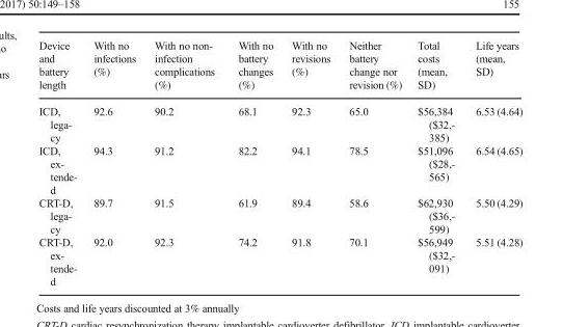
<table><thead><tr><td>Device and battery length</td><td>With no infections (%)</td><td>With no non- infection complications (%)</td><td>With no battery changes (%)</td><td>With no revisions (%)</td><td>Neither battery change nor revision (%)</td><td>Total costs (mean, SD)</td><td>Life years (mean, SD)</td></tr></thead><tbody><tr><td>ICD, lega- cy</td><td>92.6</td><td>90.2</td><td>68.1</td><td>92.3</td><td>65.0</td><td>$56,384 ($32,- 385)</td><td>6.53 (4.64)</td></tr><tr><td>ICD, ex- tende- d</td><td>94.3</td><td>91.2</td><td>82.2</td><td>94.1</td><td>78.5</td><td>$51,096 ($28,- 565)</td><td>6.54 (4.65)</td></tr><tr><td>CRT-D, lega- cy</td><td>89.7</td><td>91.5</td><td>61.9</td><td>89.4</td><td>58.6</td><td>$62,930 ($36,- 599)</td><td>5.50 (4.29)</td></tr><tr><td>CRT-D, ex- tende- d</td><td>92.0</td><td>92.3</td><td>74.2</td><td>91.8</td><td>70.1</td><td>$56,949 ($32,- 091)</td><td>5.51 (4.28)</td></tr></tbody></table>